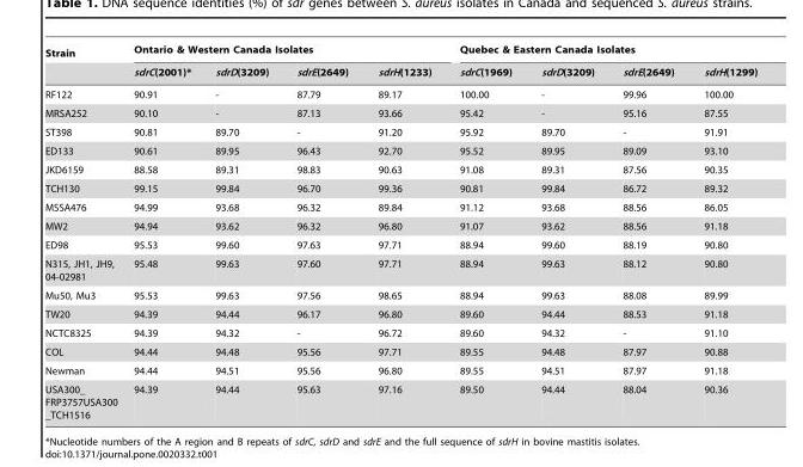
<table><thead><tr><td rowspan="2">Strain</td><td colspan="4">Ontario &amp; Western Canada Isolates</td><td colspan="4">Quebec &amp; Eastern Canada Isolates</td></tr><tr><td>sdrC(2001)*</td><td>sdrD(3209)</td><td>sdrE(2649)</td><td>sdrH(1233)</td><td>sdrC(1969)</td><td>sdrD(3209)</td><td>sdrE(2649)</td><td>sdrH(1299)</td></tr></thead><tbody><tr><td>RF122</td><td>90.91</td><td>-</td><td>87.79</td><td>89.17</td><td>100.00</td><td>-</td><td>99.96</td><td>100.00</td></tr><tr><td>MRSA252</td><td>90.10</td><td>-</td><td>87.13</td><td>93.66</td><td>95.42</td><td>-</td><td>95.16</td><td>87.55</td></tr><tr><td>ST398</td><td>90.81</td><td>89.70</td><td>-</td><td>91.20</td><td>95.92</td><td>89.70</td><td>-</td><td>91.91</td></tr><tr><td>ED133</td><td>90.61</td><td>89.95</td><td>96.43</td><td>92.70</td><td>95.52</td><td>89.95</td><td>89.09</td><td>93.10</td></tr><tr><td>JKD6159</td><td>88.58</td><td>89.31</td><td>98.83</td><td>90.63</td><td>91.08</td><td>89.31</td><td>87.56</td><td>90.35</td></tr><tr><td>TCH130</td><td>99.15</td><td>99.84</td><td>96.70</td><td>99.36</td><td>90.81</td><td>99.84</td><td>86.72</td><td>89.32</td></tr><tr><td>MSSA476</td><td>94.99</td><td>93.68</td><td>96.32</td><td>89.84</td><td>91.12</td><td>93.68</td><td>88.56</td><td>86.05</td></tr><tr><td>MW2</td><td>94.94</td><td>93.62</td><td>96.32</td><td>96.80</td><td>91.07</td><td>93.62</td><td>88.56</td><td>91.18</td></tr><tr><td>ED98</td><td>95.53</td><td>99.60</td><td>97.63</td><td>97.71</td><td>88.94</td><td>99.60</td><td>88.19</td><td>90.80</td></tr><tr><td>N315, JH1, JH9, 04-02981</td><td>95.48</td><td>99.63</td><td>97.60</td><td>97.71</td><td>88.94</td><td>99.63</td><td>88.12</td><td>90.80</td></tr><tr><td>Mu50, Mu3</td><td>95.53</td><td>99.63</td><td>97.56</td><td>98.65</td><td>88.94</td><td>99.63</td><td>88.08</td><td>89.99</td></tr><tr><td>TW20</td><td>94.39</td><td>94.44</td><td>96.17</td><td>96.80</td><td>89.60</td><td>94.44</td><td>88.53</td><td>91.18</td></tr><tr><td>NCTC8325</td><td>94.39</td><td>94.32</td><td>-</td><td>96.72</td><td>89.60</td><td>94.32</td><td>-</td><td>91.10</td></tr><tr><td>COL</td><td>94.44</td><td>94.48</td><td>95.56</td><td>97.71</td><td>89.55</td><td>94.48</td><td>87.97</td><td>90.88</td></tr><tr><td>Newman</td><td>94.44</td><td>94.51</td><td>95.56</td><td>96.80</td><td>89.55</td><td>94.51</td><td>87.97</td><td>91.18</td></tr><tr><td>USA300_ FRP3757USA300 _TCH1516</td><td>94.39</td><td>94.44</td><td>95.63</td><td>97.16</td><td>89.50</td><td>94.44</td><td>88.04</td><td>90.36</td></tr></tbody></table>